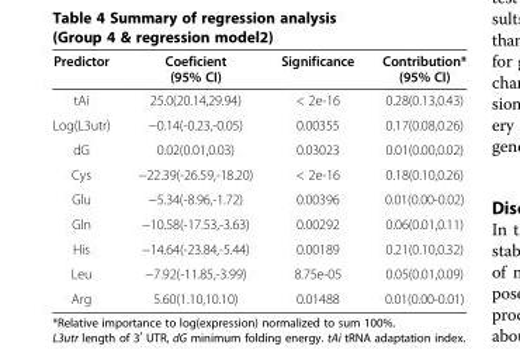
<table><thead><tr><td>Predictor</td><td>Coeficient (95% CI)</td><td>Significance</td><td>Contribution* (95% CI)</td></tr></thead><tbody><tr><td>tAi</td><td>25.0(20.14,29.94)</td><td>&lt; 2e-16</td><td>0.28(0.13,0.43)</td></tr><tr><td>Log(L3utr)</td><td>−0.14(-0.23,-0.05)</td><td>0.00355</td><td>0.17(0.08,0.26)</td></tr><tr><td>dG</td><td>0.02(0.01,0.03)</td><td>0.03023</td><td>0.01(0.00,0.02)</td></tr><tr><td>Cys</td><td>−22.39(-26.59,-18.20)</td><td>&lt; 2e-16</td><td>0.18(0.10,0.26)</td></tr><tr><td>Glu</td><td>−5.34(-8.96,-1.72)</td><td>0.00396</td><td>0.01(0.00-0.02)</td></tr><tr><td>Gln</td><td>−10.58(-17.53,-3.63)</td><td>0.00292</td><td>0.06(0.01,0.11)</td></tr><tr><td>His</td><td>−14.64(-23.84,-5.44)</td><td>0.00189</td><td>0.21(0.10,0.32)</td></tr><tr><td>Leu</td><td>−7.92(-11.85,-3.99)</td><td>8.75e-05</td><td>0.05(0.01,0.09)</td></tr><tr><td>Arg</td><td>5.60(1.10,10.10)</td><td>0.01488</td><td>0.01(0.00-0.01)</td></tr></tbody></table>